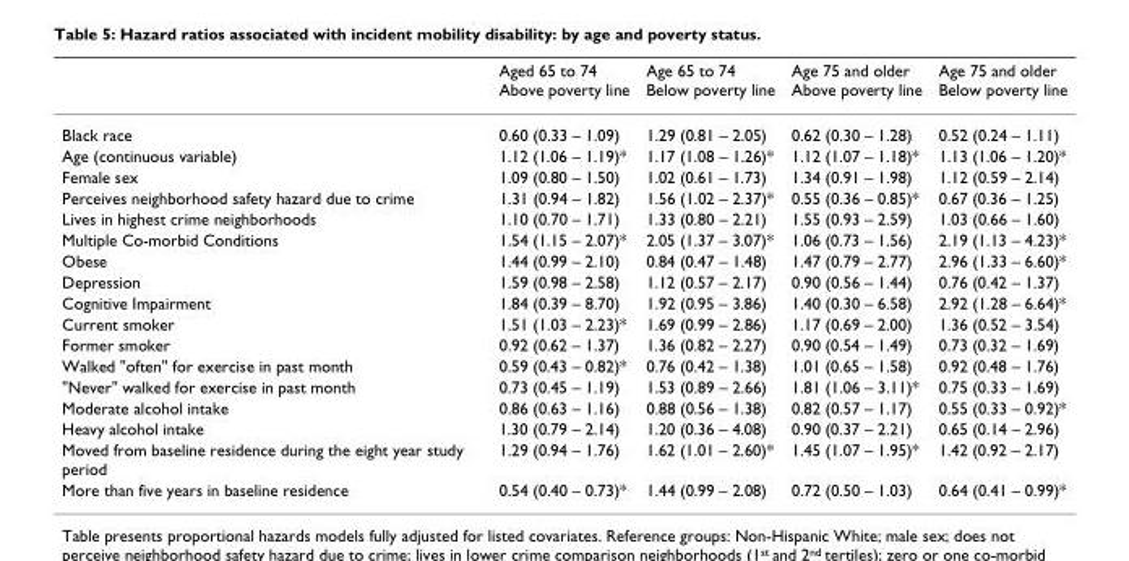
<table><thead><tr><td></td><td>Aged 65 to 74 Above poverty line</td><td>Age 65 to 74 Below poverty line</td><td>Age 75 and older Above poverty line</td><td>Age 75 and older Below poverty line</td></tr></thead><tbody><tr><td>Black race</td><td>0.60 (0.33 – 1.09)</td><td>1.29 (0.81 – 2.05)</td><td>0.62 (0.30 – 1.28)</td><td>0.52 (0.24 – 1.11)</td></tr><tr><td>Age (continuous variable)</td><td>1.12 (1.06 – 1.19)*</td><td>1.17 (1.08 – 1.26)*</td><td>1.12 (1.07 – 1.18)*</td><td>1.13 (1.06 – 1.20)*</td></tr><tr><td>Female sex</td><td>1.09 (0.80 – 1.50)</td><td>1.02 (0.61 – 1.73)</td><td>1.34 (0.91 – 1.98)</td><td>1.12 (0.59 – 2.14)</td></tr><tr><td>Perceives neighborhood safety hazard due to crime</td><td>1.31 (0.94 – 1.82)</td><td>1.56 (1.02 – 2.37)*</td><td>0.55 (0.36 – 0.85)*</td><td>0.67 (0.36 – 1.25)</td></tr><tr><td>Lives in highest crime neighborhoods</td><td>1.10 (0.70 – 1.71)</td><td>1.33 (0.80 – 2.21)</td><td>1.55 (0.93 – 2.59)</td><td>1.03 (0.66 – 1.60)</td></tr><tr><td>Multiple Co-morbid Conditions</td><td>1.54 (1.15 – 2.07)*</td><td>2.05 (1.37 – 3.07)*</td><td>1.06 (0.73 – 1.56)</td><td>2.19 (1.13 – 4.23)*</td></tr><tr><td>Obese</td><td>1.44 (0.99 – 2.10)</td><td>0.84 (0.47 – 1.48)</td><td>1.47 (0.79 – 2.77)</td><td>2.96 (1.33 – 6.60)*</td></tr><tr><td>Depression</td><td>1.59 (0.98 – 2.58)</td><td>1.12 (0.57 – 2.17)</td><td>0.90 (0.56 – 1.44)</td><td>0.76 (0.42 – 1.37)</td></tr><tr><td>Cognitive Impairment</td><td>1.84 (0.39 – 8.70)</td><td>1.92 (0.95 – 3.86)</td><td>1.40 (0.30 – 6.58)</td><td>2.92 (1.28 – 6.64)*</td></tr><tr><td>Current smoker</td><td>1.51 (1.03 – 2.23)*</td><td>1.69 (0.99 – 2.86)</td><td>1.17 (0.69 – 2.00)</td><td>1.36 (0.52 – 3.54)</td></tr><tr><td>Former smoker</td><td>0.92 (0.62 – 1.37)</td><td>1.36 (0.82 – 2.27)</td><td>0.90 (0.54 – 1.49)</td><td>0.73 (0.32 – 1.69)</td></tr><tr><td>Walked &quot;often&quot; for exercise in past month</td><td>0.59 (0.43 – 0.82)*</td><td>0.76 (0.42 – 1.38)</td><td>1.01 (0.65 – 1.58)</td><td>0.92 (0.48 – 1.76)</td></tr><tr><td>&quot;Never&quot; walked for exercise in past month</td><td>0.73 (0.45 – 1.19)</td><td>1.53 (0.89 – 2.66)</td><td>1.81 (1.06 – 3.11)*</td><td>0.75 (0.33 – 1.69)</td></tr><tr><td>Moderate alcohol intake</td><td>0.86 (0.63 – 1.16)</td><td>0.88 (0.56 – 1.38)</td><td>0.82 (0.57 – 1.17)</td><td>0.55 (0.33 – 0.92)*</td></tr><tr><td>Heavy alcohol intake</td><td>1.30 (0.79 – 2.14)</td><td>1.20 (0.36 – 4.08)</td><td>0.90 (0.37 – 2.21)</td><td>0.65 (0.14 – 2.96)</td></tr><tr><td>Moved from baseline residence during the eight year study period</td><td>1.29 (0.94 – 1.76)</td><td>1.62 (1.01 – 2.60)*</td><td>1.45 (1.07 – 1.95)*</td><td>1.42 (0.92 – 2.17)</td></tr><tr><td>More than five years in baseline residence</td><td>0.54 (0.40 – 0.73)*</td><td>1.44 (0.99 – 2.08)</td><td>0.72 (0.50 – 1.03)</td><td>0.64 (0.41 – 0.99)*</td></tr></tbody></table>